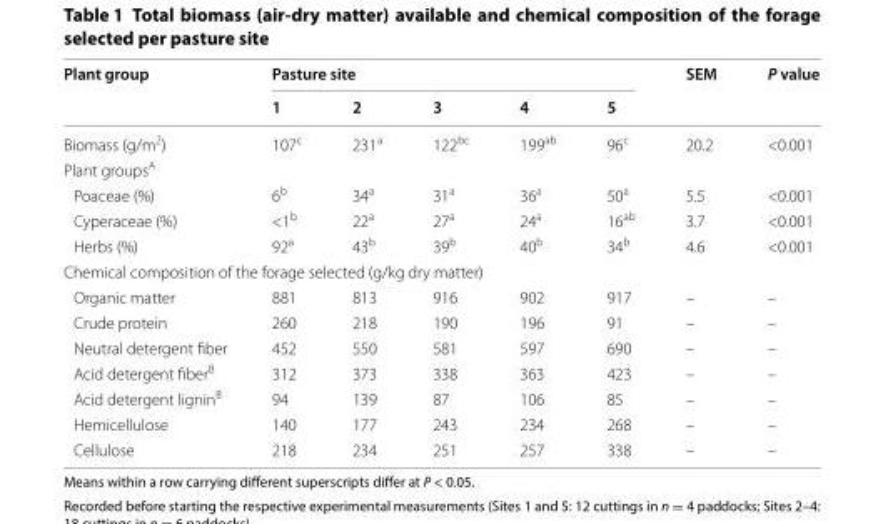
<table><thead><tr><td rowspan="2">Plant group</td><td colspan="5">Pasture site</td><td rowspan="2">SEM</td><td rowspan="2">P value</td></tr><tr><td>1</td><td>2</td><td>3</td><td>4</td><td>5</td></tr></thead><tbody><tr><td>Biomass (g/m<sup>2</sup>)</td><td>107<sup>c</sup></td><td>231<sup>a</sup></td><td>122<sup>bc</sup></td><td>199<sup>ab</sup></td><td>96<sup>c</sup></td><td>20.2</td><td>&lt;0.001</td></tr><tr><td colspan="8">Plant groups<sup>A</sup></td></tr><tr><td>Poaceae (%)</td><td>6<sup>b</sup></td><td>34<sup>a</sup></td><td>31<sup>a</sup></td><td>36<sup>a</sup></td><td>50<sup>a</sup></td><td>5.5</td><td>&lt;0.001</td></tr><tr><td>Cyperaceae (%)</td><td>&lt;1<sup>b</sup></td><td>22<sup>a</sup></td><td>27<sup>a</sup></td><td>24<sup>a</sup></td><td>16<sup>ab</sup></td><td>3.7</td><td>&lt;0.001</td></tr><tr><td>Herbs (%)</td><td>92<sup>a</sup></td><td>43<sup>b</sup></td><td>39<sup>b</sup></td><td>40<sup>b</sup></td><td>34<sup>b</sup></td><td>4.6</td><td>&lt;0.001</td></tr><tr><td colspan="8">Chemical composition of the forage selected (g/kg dry matter)</td></tr><tr><td>Organic matter</td><td>881</td><td>813</td><td>916</td><td>902</td><td>917</td><td>–</td><td>–</td></tr><tr><td>Crude protein</td><td>260</td><td>218</td><td>190</td><td>196</td><td>91</td><td>–</td><td>–</td></tr><tr><td>Neutral detergent fiber</td><td>452</td><td>550</td><td>581</td><td>597</td><td>690</td><td>–</td><td>–</td></tr><tr><td>Acid detergent fiber<sup>B</sup></td><td>312</td><td>373</td><td>338</td><td>363</td><td>423</td><td>–</td><td>–</td></tr><tr><td>Acid detergent lignin<sup>B</sup></td><td>94</td><td>139</td><td>87</td><td>106</td><td>85</td><td>–</td><td>–</td></tr><tr><td>Hemicellulose</td><td>140</td><td>177</td><td>243</td><td>234</td><td>268</td><td>–</td><td>–</td></tr><tr><td>Cellulose</td><td>218</td><td>234</td><td>251</td><td>257</td><td>338</td><td>–</td><td>–</td></tr></tbody></table>